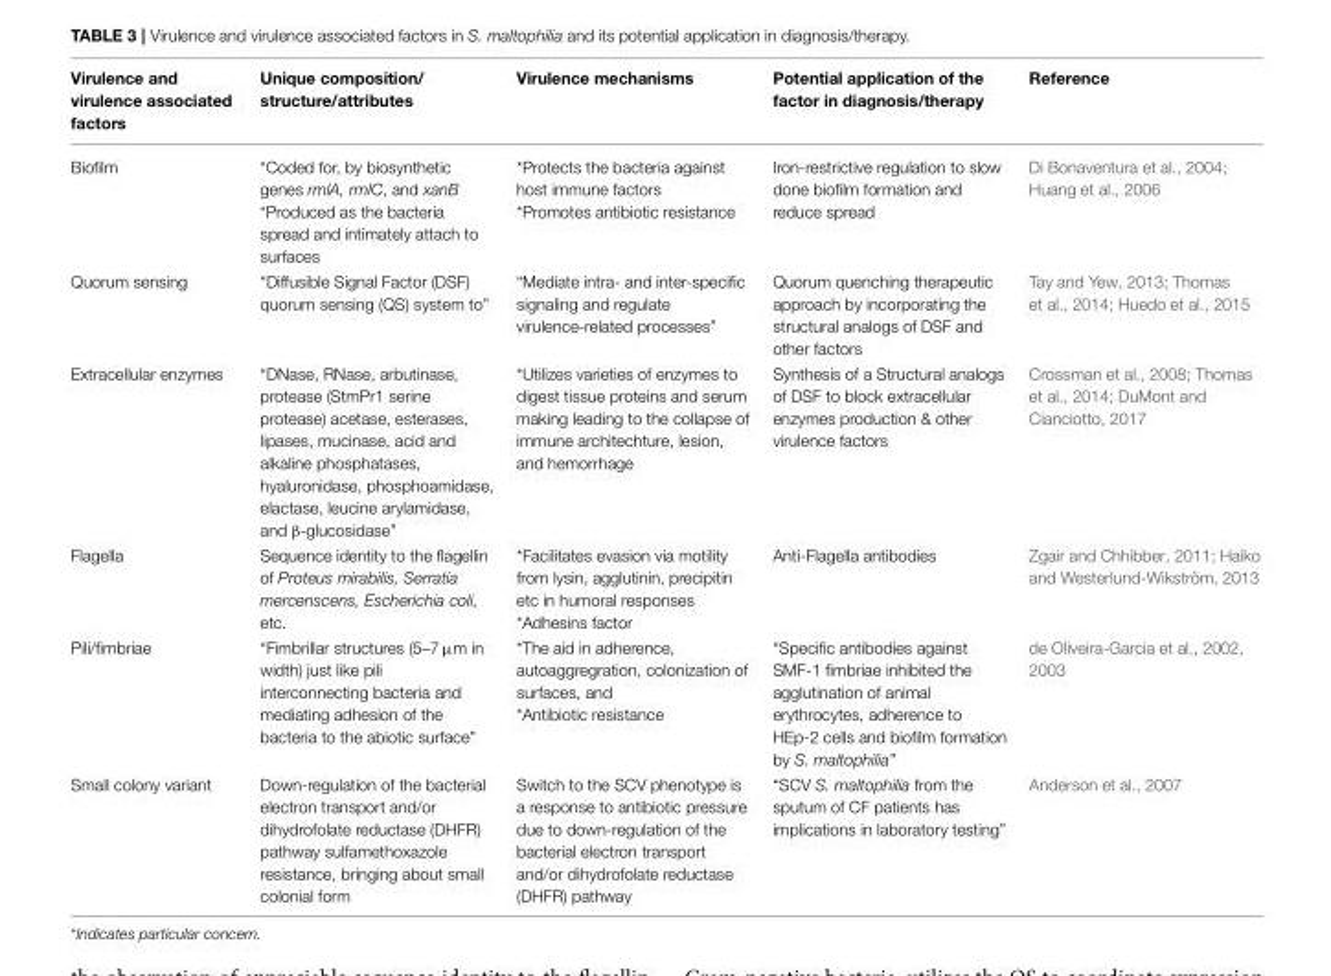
<table><thead><tr><td>Virulence and virulence associated factors</td><td>Unique composition/ structure/attributes</td><td>Virulence mechanisms</td><td>Potential application of the factor in diagnosis/therapy</td><td>Reference</td></tr></thead><tbody><tr><td>Biofilm</td><td>*Coded for, by biosynthetic genes rmlA, rmlC, and xanB *Produced as the bacteria spread and intimately attach to surfaces</td><td>*Protects the bacteria against host immune factors *Promotes antibiotic resistance</td><td>Iron-restrictive regulation to slow done biofilm formation and reduce spread</td><td>Di Bonaventura et al., 2004; Huang et al., 2006</td></tr><tr><td>Quorum sensing</td><td>“Diffusible Signal Factor (DSF) quorum sensing (QS) system to”</td><td>“Mediate intra- and inter-specific signaling and regulate virulence-related processes”</td><td>Quorum quenching therapeutic approach by incorporating the structural analogs of DSF and other factors</td><td>Tay and Yew, 2013; Thomas et al., 2014; Huedo et al., 2015</td></tr><tr><td>Extracellular enzymes</td><td>“DNase, RNase, arbutinase, protease (StmPr1 serine protease) acetase, esterases, lipases, mucinase, acid and alkaline phosphatases, hyaluronidase, phosphoamidase, elactase, leucine arylamidase, and β-glucosidase”</td><td>*Utilizes varieties of enzymes to digest tissue proteins and serum making leading to the collapse of immune architechture, lesion, and hemorrhage</td><td>Synthesis of a Structural analogs of DSF to block extracellular enzymes production &amp; other virulence factors</td><td>Crossman et al., 2008; Thomas et al., 2014; DuMont and Cianciotto, 2017</td></tr><tr><td>Flagella</td><td>Sequence identity to the flagellin of Proteus mirabilis, Serratia mercenscens, Escherichia coli, etc.</td><td>*Facilitates evasion via motility from lysin, agglutinin, precipitin etc in humoral responses *Adhesins factor</td><td>Anti-Flagella antibodies</td><td>Zgair and Chhibber, 2011; Haiko and Westerlund-Wikström, 2013</td></tr><tr><td>Pili/fimbriae</td><td>“Fimbrillar structures (5–7 µm in width) just like pili interconnecting bacteria and mediating adhesion of the bacteria to the abiotic surface”</td><td>*The aid in adherence, autoaggregration, colonization of surfaces, and *Antibiotic resistance</td><td>“Specific antibodies against SMF-1 fimbriae inhibited the agglutination of animal erythrocytes, adherence to HEp-2 cells and biofilm formation by S. maltophilia”</td><td>de Oliveira-Garcia et al., 2002, 2003</td></tr><tr><td>Small colony variant</td><td>Down-regulation of the bacterial electron transport and/or dihydrofolate reductase (DHFR) pathway sulfamethoxazole resistance, bringing about small colonial form</td><td>Switch to the SCV phenotype is a response to antibiotic pressure due to down-regulation of the bacterial electron transport and/or dihydrofolate reductase (DHFR) pathway</td><td>“SCV S. maltophilia from the sputum of CF patients has implications in laboratory testing”</td><td>Anderson et al., 2007</td></tr></tbody></table>